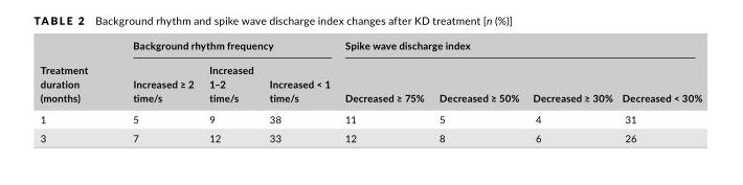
<table><thead><tr><td rowspan="2">Treatment duration (months)</td><td colspan="3">Background rhythm frequency</td><td colspan="4">Spike wave discharge index</td></tr><tr><td>Increased ≥ 2 time/s</td><td>Increased 1–2 time/s</td><td>Increased &lt; 1 time/s</td><td>Decreased ≥ 75%</td><td>Decreased ≥ 50%</td><td>Decreased ≥ 30%</td><td>Decreased &lt; 30%</td></tr></thead><tbody><tr><td>1</td><td>5</td><td>9</td><td>38</td><td>11</td><td>5</td><td>4</td><td>31</td></tr><tr><td>3</td><td>7</td><td>12</td><td>33</td><td>12</td><td>8</td><td>6</td><td>26</td></tr></tbody></table>